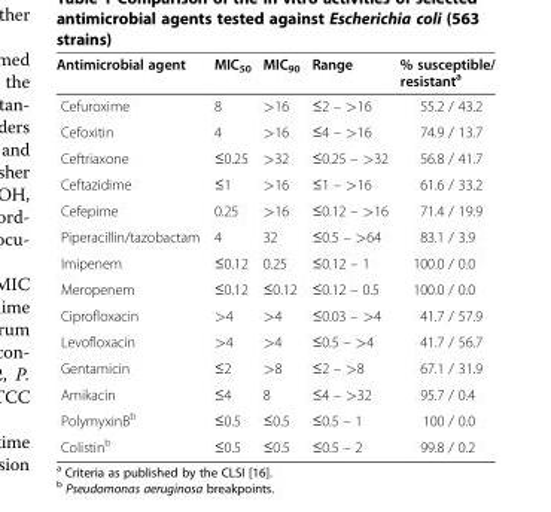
<table><thead><tr><td>Antimicrobial agent</td><td>MIC<sub>50</sub></td><td>MIC<sub>90</sub></td><td>Range</td><td>% susceptible/ resistant<sup>a</sup></td></tr></thead><tbody><tr><td>Cefuroxime</td><td>8</td><td>&gt;16</td><td>≤2 – &gt;16</td><td>55.2 / 43.2</td></tr><tr><td>Cefoxitin</td><td>4</td><td>&gt;16</td><td>≤4 – &gt;16</td><td>74.9 / 13.7</td></tr><tr><td>Ceftriaxone</td><td>≤0.25</td><td>&gt;32</td><td>≤0.25 – &gt;32</td><td>56.8 / 41.7</td></tr><tr><td>Ceftazidime</td><td>≤1</td><td>&gt;16</td><td>≤1 – &gt;16</td><td>61.6 / 33.2</td></tr><tr><td>Cefepime</td><td>0.25</td><td>&gt;16</td><td>≤0.12 – &gt;16</td><td>71.4 / 19.9</td></tr><tr><td>Piperacillin/tazobactam</td><td>4</td><td>32</td><td>≤0.5 – &gt;64</td><td>83.1 / 3.9</td></tr><tr><td>Imipenem</td><td>≤0.12</td><td>0.25</td><td>≤0.12 – 1</td><td>100.0 / 0.0</td></tr><tr><td>Meropenem</td><td>≤0.12</td><td>≤0.12</td><td>≤0.12 – 0.5</td><td>100.0 / 0.0</td></tr><tr><td>Ciprofloxacin</td><td>&gt;4</td><td>&gt;4</td><td>≤0.03 – &gt;4</td><td>41.7 / 57.9</td></tr><tr><td>Levofloxacin</td><td>&gt;4</td><td>&gt;4</td><td>≤0.5 – &gt;4</td><td>41.7 / 56.7</td></tr><tr><td>Gentamicin</td><td>≤2</td><td>&gt;8</td><td>≤2 – &gt;8</td><td>67.1 / 31.9</td></tr><tr><td>Amikacin</td><td>≤4</td><td>8</td><td>≤4 – &gt;32</td><td>95.7 / 0.4</td></tr><tr><td>PolymyxinB<sup>b</sup></td><td>≤0.5</td><td>≤0.5</td><td>≤0.5 – 1</td><td>100 / 0.0</td></tr><tr><td>Colistin<sup>b</sup></td><td>≤0.5</td><td>≤0.5</td><td>≤0.5 – 2</td><td>99.8 / 0.2</td></tr></tbody></table>